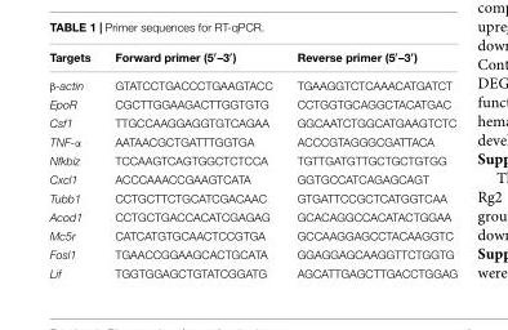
<table><thead><tr><td>Targets</td><td>Forward primer (5′–3′)</td><td>Reverse primer (5′–3′)</td></tr></thead><tbody><tr><td>β-actin</td><td>GTATCCTGACCCTGAAGTACC</td><td>TGAAGGTCTCAAACATGATCT</td></tr><tr><td>EpoR</td><td>CGCTTGGAAGACTTGGTGTG</td><td>CCTGGTGCAGGCTACATGAC</td></tr><tr><td>Csf1</td><td>TTGCCAAGGAGGTGTCAGAA</td><td>GGCAATCTGGCATGAAGTCTC</td></tr><tr><td>TNF-α</td><td>AATAACGCTGATTTGGTGA</td><td>ACCCGTAGGGCGATTACA</td></tr><tr><td>Nfkbiz</td><td>TCCAAGTCAGTGGCTCTCCA</td><td>TGTTGATGTTGCTGCTGTGG</td></tr><tr><td>Cxcl1</td><td>ACCCAAACCGAAGTCATA</td><td>GGTGCCATCAGAGCAGT</td></tr><tr><td>Tubb1</td><td>CCTGCTTCTGCATCGACAAC</td><td>GTGATTCCGCTCATGGTCAA</td></tr><tr><td>Acod1</td><td>CCTGCTGACCACATCGAGAG</td><td>GCACAGGCCACATACTGGAA</td></tr><tr><td>Mc5r</td><td>CATCATGTGCAACTCCGTGA</td><td>GCCAAGGAGCCTACAAGGTC</td></tr><tr><td>Fosl1</td><td>TGAACCGGAAGCACTGCATA</td><td>GGAGGAGCAAGGTTCTGGTG</td></tr><tr><td>Lif</td><td>TGGTGGAGCTGTATCGGATG</td><td>AGCATTGAGCTTGACCTGGAG</td></tr></tbody></table>